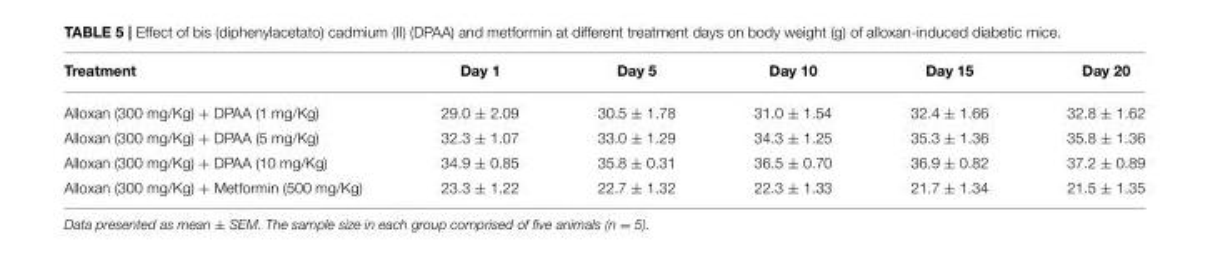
<table><thead><tr><td>Treatment</td><td>Day 1</td><td>Day 5</td><td>Day 10</td><td>Day 15</td><td>Day 20</td></tr></thead><tbody><tr><td>Alloxan (300 mg/Kg) + DPAA (1 mg/Kg)</td><td>29.0 ± 2.09</td><td>30.5 ± 1.78</td><td>31.0 ± 1.54</td><td>32.4 ± 1.66</td><td>32.8 ± 1.62</td></tr><tr><td>Alloxan (300 mg/Kg) + DPAA (5 mg/Kg)</td><td>32.3 ± 1.07</td><td>33.0 ± 1.29</td><td>34.3 ± 1.25</td><td>35.3 ± 1.36</td><td>35.8 ± 1.36</td></tr><tr><td>Alloxan (300 mg/Kg) + DPAA (10 mg/Kg)</td><td>34.9 ± 0.85</td><td>35.8 ± 0.31</td><td>36.5 ± 0.70</td><td>36.9 ± 0.82</td><td>37.2 ± 0.89</td></tr><tr><td>Alloxan (300 mg/Kg) + Metformin (500 mg/Kg)</td><td>23.3 ± 1.22</td><td>22.7 ± 1.32</td><td>22.3 ± 1.33</td><td>21.7 ± 1.34</td><td>21.5 ± 1.35</td></tr></tbody></table>